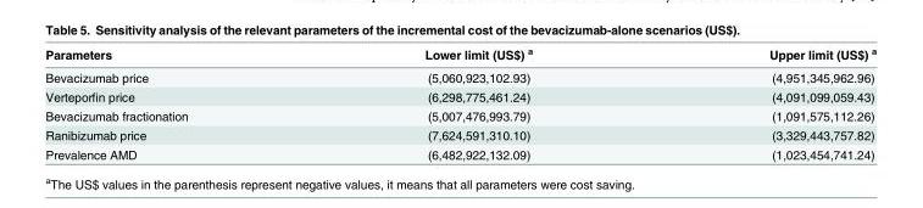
<table><thead><tr><td>Parameters</td><td>Lower limit (US$) <sup>a</sup></td><td>Upper limit (US$) <sup>a</sup></td></tr></thead><tbody><tr><td>Bevacizumab price</td><td>(5,060,923,102.93)</td><td>(4,951,345,962.96)</td></tr><tr><td>Verteporfin price</td><td>(6,298,775,461.24)</td><td>(4,091,099,059.43)</td></tr><tr><td>Bevacizumab fractionation</td><td>(5,007,476,993.79)</td><td>(1,091,575,112.26)</td></tr><tr><td>Ranibizumab price</td><td>(7,624,591,310.10)</td><td>(3,329,443,757.82)</td></tr><tr><td>Prevalence AMD</td><td>(6,482,922,132.09)</td><td>(1,023,454,741.24)</td></tr></tbody></table>